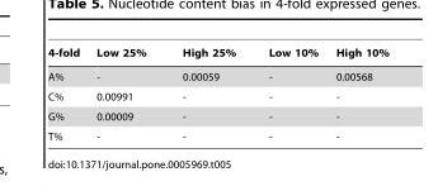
<table><thead><tr><td>4-fold</td><td>Low 25%</td><td>High 25%</td><td>Low 10%</td><td>High 10%</td></tr></thead><tbody><tr><td>A%</td><td>-</td><td>0.00059</td><td>-</td><td>0.00568</td></tr><tr><td>C%</td><td>0.00991</td><td>-</td><td>-</td><td>-</td></tr><tr><td>G%</td><td>0.00009</td><td>-</td><td>-</td><td>-</td></tr><tr><td>T%</td><td>-</td><td>-</td><td>-</td><td>-</td></tr></tbody></table>